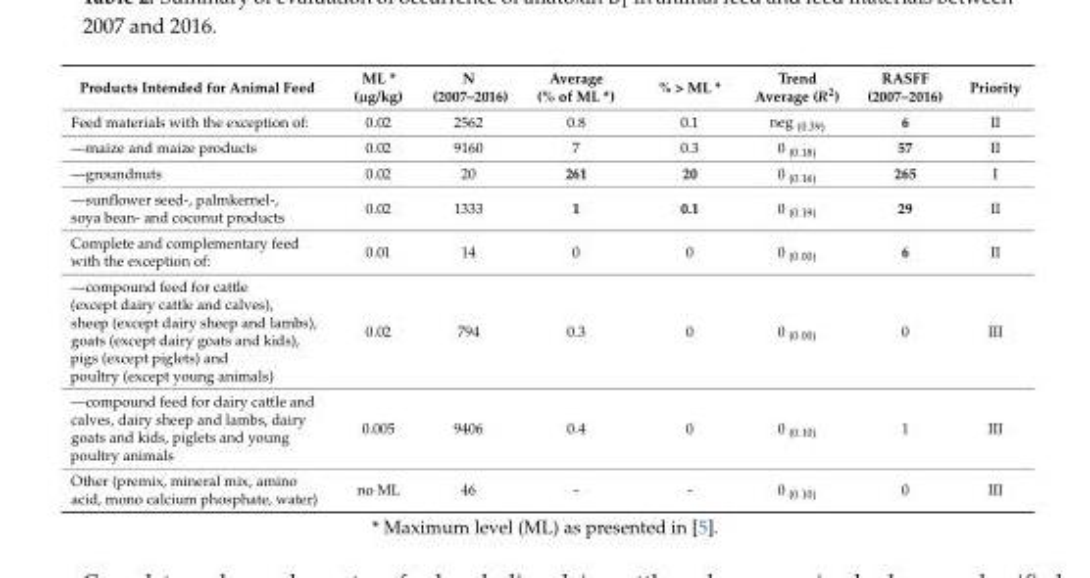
<table><thead><tr><td>Products Intended for Animal Feed</td><td>ML * (µg/kg)</td><td>N (2007–2016)</td><td>Average (% of ML *)</td><td>% &gt; ML *</td><td>Trend Average (R<sup>2</sup>)</td><td>RASFF (2007–2016)</td><td>Priority</td></tr></thead><tbody><tr><td>Feed materials with the exception of:</td><td>0.02</td><td>2562</td><td>0.8</td><td>0.1</td><td>neg <sub>(0.39)</sub></td><td>6</td><td>II</td></tr><tr><td>—maize and maize products</td><td>0.02</td><td>9160</td><td>7</td><td>0.3</td><td>0 <sub>(0.18)</sub></td><td>57</td><td>II</td></tr><tr><td>—groundnuts</td><td>0.02</td><td>20</td><td>261</td><td>20</td><td>0 <sub>(0.16)</sub></td><td>265</td><td>I</td></tr><tr><td>—sunflower seed-, palmkernel-, soya bean- and coconut products</td><td>0.02</td><td>1333</td><td>1</td><td>0.1</td><td>0 <sub>(0.19)</sub></td><td>29</td><td>II</td></tr><tr><td>Complete and complementary feed with the exception of:</td><td>0.01</td><td>14</td><td>0</td><td>0</td><td>0 <sub>(0.00)</sub></td><td>6</td><td>II</td></tr><tr><td>—compound feed for cattle (except dairy cattle and calves), sheep (except dairy sheep and lambs), goats (except dairy goats and kids), pigs (except piglets) and poultry (except young animals)</td><td>0.02</td><td>794</td><td>0.3</td><td>0</td><td>0 <sub>(0.00)</sub></td><td>0</td><td>III</td></tr><tr><td>—compound feed for dairy cattle and calves, dairy sheep and lambs, dairy goats and kids, piglets and young poultry animals</td><td>0.005</td><td>9406</td><td>0.4</td><td>0</td><td>0 <sub>(0.10)</sub></td><td>1</td><td>III</td></tr><tr><td>Other (premix, mineral mix, amino acid, mono calcium phosphate, water)</td><td>no ML</td><td>46</td><td>-</td><td>-</td><td>0 <sub>(0.10)</sub></td><td>0</td><td>III</td></tr></tbody></table>